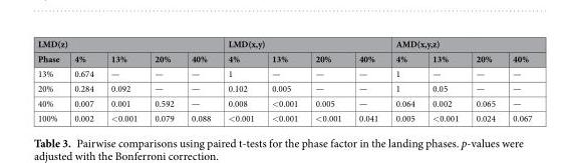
<table><thead><tr><td colspan="5">LMD(z)</td><td colspan="4">LMD(x,y)</td><td colspan="4">AMD(x,y,z)</td></tr><tr><td>Phase</td><td>4%</td><td>13%</td><td>20%</td><td>40%</td><td>4%</td><td>13%</td><td>20%</td><td>40%</td><td>4%</td><td>13%</td><td>20%</td><td>40%</td></tr></thead><tbody><tr><td>13%</td><td>0.674</td><td>—</td><td>—</td><td>—</td><td>1</td><td>—</td><td>—</td><td>—</td><td>1</td><td>—</td><td>—</td><td>—</td></tr><tr><td>20%</td><td>0.284</td><td>0.092</td><td>—</td><td>—</td><td>0.102</td><td>0.005</td><td>—</td><td>—</td><td>1</td><td>0.05</td><td>—</td><td>—</td></tr><tr><td>40%</td><td>0.007</td><td>0.001</td><td>0.592</td><td>—</td><td>0.008</td><td>&lt;0.001</td><td>0.005</td><td>—</td><td>0.064</td><td>0.002</td><td>0.065</td><td>—</td></tr><tr><td>100%</td><td>0.002</td><td>&lt;0.001</td><td>0.079</td><td>0.088</td><td>&lt;0.001</td><td>&lt;0.001</td><td>&lt;0.001</td><td>0.041</td><td>0.005</td><td>&lt;0.001</td><td>0.024</td><td>0.067</td></tr></tbody></table>